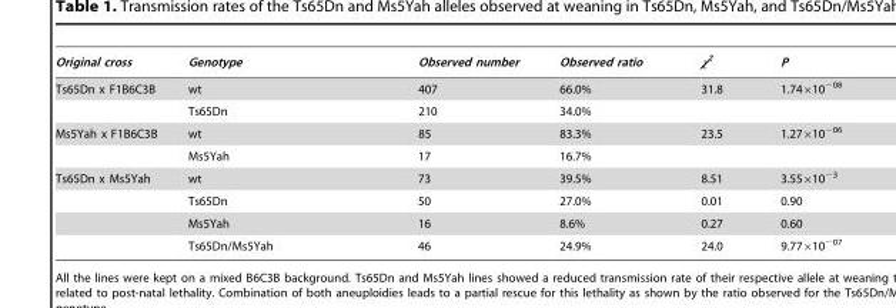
<table><thead><tr><td>Original cross</td><td>Genotype</td><td>Observed number</td><td>Observed ratio</td><td>χ<sup>2</sup></td><td>P</td></tr></thead><tbody><tr><td rowspan="2">Ts65Dn x F1B6C3B</td><td>wt</td><td>407</td><td>66.0%</td><td>31.8</td><td>1.74×10<sup>−08</sup></td></tr><tr><td>Ts65Dn</td><td>210</td><td>34.0%</td><td></td><td></td></tr><tr><td rowspan="2">Ms5Yah x F1B6C3B</td><td>wt</td><td>85</td><td>83.3%</td><td>23.5</td><td>1.27×10<sup>−06</sup></td></tr><tr><td>Ms5Yah</td><td>17</td><td>16.7%</td><td></td><td></td></tr><tr><td rowspan="4">Ts65Dn x Ms5Yah</td><td>wt</td><td>73</td><td>39.5%</td><td>8.51</td><td>3.55×10<sup>−3</sup></td></tr><tr><td>Ts65Dn</td><td>50</td><td>27.0%</td><td>0.01</td><td>0.90</td></tr><tr><td>Ms5Yah</td><td>16</td><td>8.6%</td><td>0.27</td><td>0.60</td></tr><tr><td>Ts65Dn/Ms5Yah</td><td>46</td><td>24.9%</td><td>24.0</td><td>9.77×10<sup>−07</sup></td></tr></tbody></table>